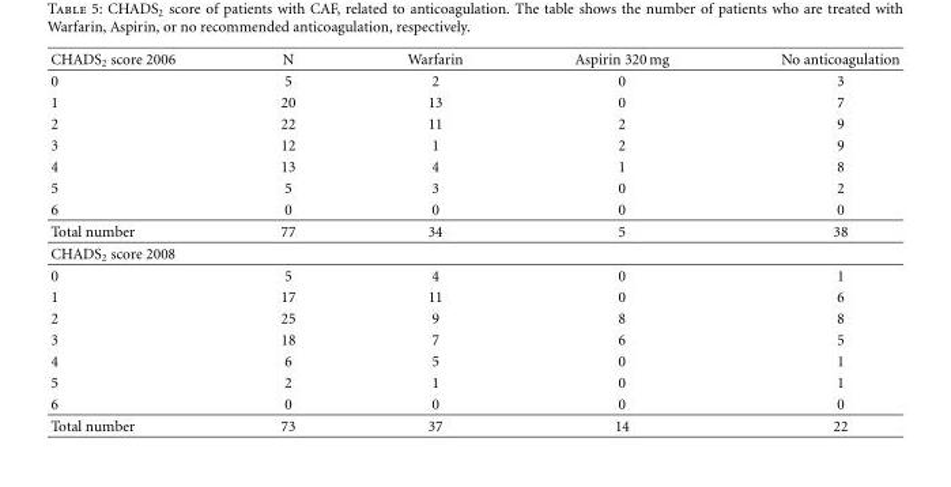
<table><thead><tr><td>CHADS<sub>2</sub> score 2006</td><td>N</td><td>Warfarin</td><td>Aspirin 320 mg</td><td>No anticoagulation</td></tr></thead><tbody><tr><td>0</td><td>5</td><td>2</td><td>0</td><td>3</td></tr><tr><td>1</td><td>20</td><td>13</td><td>0</td><td>7</td></tr><tr><td>2</td><td>22</td><td>11</td><td>2</td><td>9</td></tr><tr><td>3</td><td>12</td><td>1</td><td>2</td><td>9</td></tr><tr><td>4</td><td>13</td><td>4</td><td>1</td><td>8</td></tr><tr><td>5</td><td>5</td><td>3</td><td>0</td><td>2</td></tr><tr><td>6</td><td>0</td><td>0</td><td>0</td><td>0</td></tr><tr><td>Total number</td><td>77</td><td>34</td><td>5</td><td>38</td></tr><tr><td colspan="5">CHADS<sub>2</sub> score 2008</td></tr><tr><td>0</td><td>5</td><td>4</td><td>0</td><td>1</td></tr><tr><td>1</td><td>17</td><td>11</td><td>0</td><td>6</td></tr><tr><td>2</td><td>25</td><td>9</td><td>8</td><td>8</td></tr><tr><td>3</td><td>18</td><td>7</td><td>6</td><td>5</td></tr><tr><td>4</td><td>6</td><td>5</td><td>0</td><td>1</td></tr><tr><td>5</td><td>2</td><td>1</td><td>0</td><td>1</td></tr><tr><td>6</td><td>0</td><td>0</td><td>0</td><td>0</td></tr><tr><td>Total number</td><td>73</td><td>37</td><td>14</td><td>22</td></tr></tbody></table>